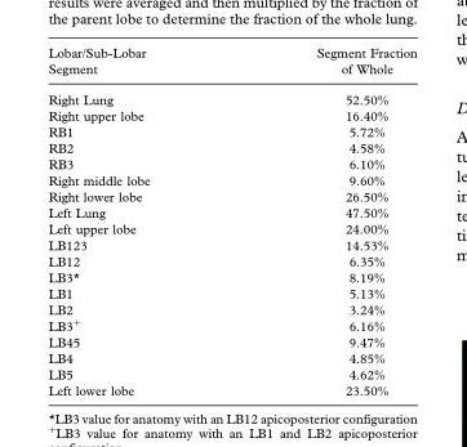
<table><thead><tr><td>Lobar/Sub-Lobar Segment</td><td>Segment Fraction of Whole</td></tr></thead><tbody><tr><td>Right Lung</td><td>52.50%</td></tr><tr><td>Right upper lobe</td><td>16.40%</td></tr><tr><td>RB1</td><td>5.72%</td></tr><tr><td>RB2</td><td>4.58%</td></tr><tr><td>RB3</td><td>6.10%</td></tr><tr><td>Right middle lobe</td><td>9.60%</td></tr><tr><td>Right lower lobe</td><td>26.50%</td></tr><tr><td>Left Lung</td><td>47.50%</td></tr><tr><td>Left upper lobe</td><td>24.00%</td></tr><tr><td>LB123</td><td>14.53%</td></tr><tr><td>LB12</td><td>6.35%</td></tr><tr><td>LB3*</td><td>8.19%</td></tr><tr><td>LB1</td><td>5.13%</td></tr><tr><td>LB2</td><td>3.24%</td></tr><tr><td>LB3+</td><td>6.16%</td></tr><tr><td>LB45</td><td>9.47%</td></tr><tr><td>LB4</td><td>4.85%</td></tr><tr><td>LB5</td><td>4.62%</td></tr><tr><td>Left lower lobe</td><td>23.50%</td></tr></tbody></table>